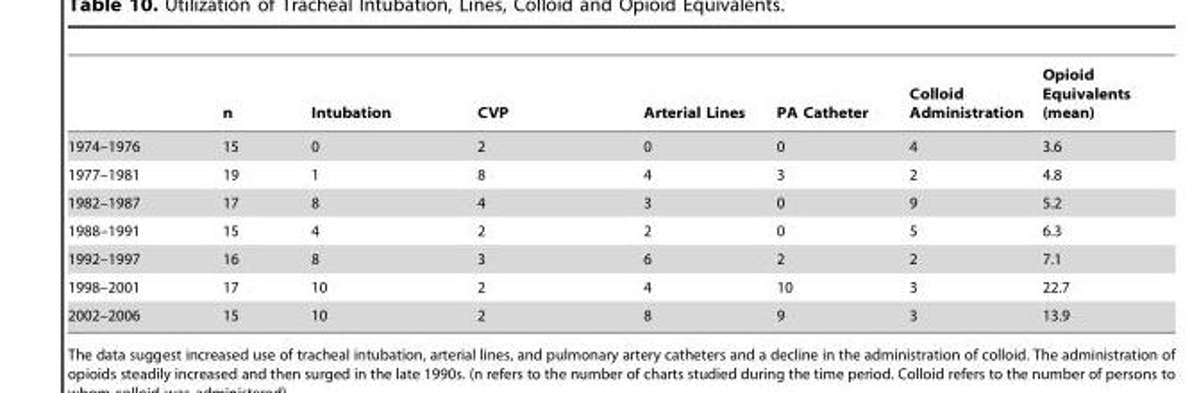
<table><thead><tr><td></td><td>n</td><td>Intubation</td><td>CVP</td><td>Arterial Lines</td><td>PA Catheter</td><td>Colloid Administration</td><td>Opioid Equivalents (mean)</td></tr></thead><tbody><tr><td>1974–1976</td><td>15</td><td>0</td><td>2</td><td>0</td><td>0</td><td>4</td><td>3.6</td></tr><tr><td>1977–1981</td><td>19</td><td>1</td><td>8</td><td>4</td><td>3</td><td>2</td><td>4.8</td></tr><tr><td>1982–1987</td><td>17</td><td>8</td><td>4</td><td>3</td><td>0</td><td>9</td><td>5.2</td></tr><tr><td>1988–1991</td><td>15</td><td>4</td><td>2</td><td>2</td><td>0</td><td>5</td><td>6.3</td></tr><tr><td>1992–1997</td><td>16</td><td>8</td><td>3</td><td>6</td><td>2</td><td>2</td><td>7.1</td></tr><tr><td>1998–2001</td><td>17</td><td>10</td><td>2</td><td>4</td><td>10</td><td>3</td><td>22.7</td></tr><tr><td>2002–2006</td><td>15</td><td>10</td><td>2</td><td>8</td><td>9</td><td>3</td><td>13.9</td></tr></tbody></table>